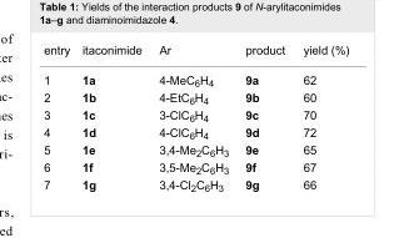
<table><tbody><tr><td>entry</td><td>itaconimide</td><td>Ar</td><td>product</td><td>yield (%)</td></tr><tr><td>1</td><td>1a</td><td>4-MeC<sub>6</sub>H<sub>4</sub></td><td>9a</td><td>62</td></tr><tr><td>2</td><td>1b</td><td>4-EtC<sub>6</sub>H<sub>4</sub></td><td>9b</td><td>60</td></tr><tr><td>3</td><td>1c</td><td>3-ClC<sub>6</sub>H<sub>4</sub></td><td>9c</td><td>70</td></tr><tr><td>4</td><td>1d</td><td>4-ClC<sub>6</sub>H<sub>4</sub></td><td>9d</td><td>72</td></tr><tr><td>5</td><td>1e</td><td>3,4-Me<sub>2</sub>C<sub>6</sub>H<sub>3</sub></td><td>9e</td><td>65</td></tr><tr><td>6</td><td>1f</td><td>3,5-Me<sub>2</sub>C<sub>6</sub>H<sub>3</sub></td><td>9f</td><td>67</td></tr><tr><td>7</td><td>1g</td><td>3,4-Cl<sub>2</sub>C<sub>6</sub>H<sub>3</sub></td><td>9g</td><td>66</td></tr></tbody></table>